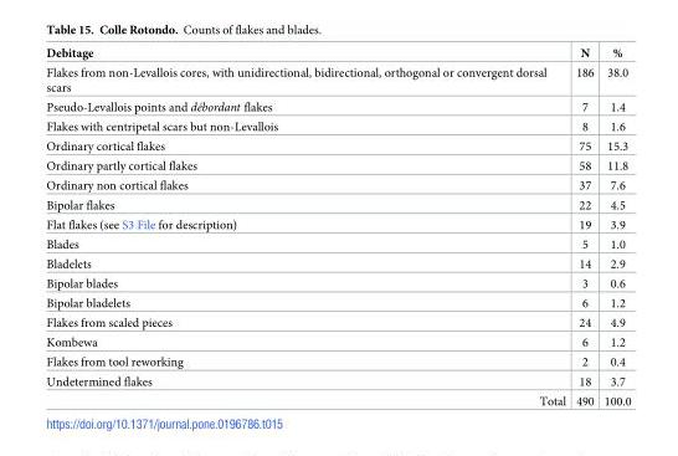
<table><thead><tr><td>Debitage</td><td>N</td><td>%</td></tr></thead><tbody><tr><td>Flakes from non-Levallois cores, with unidirectional, bidirectional, orthogonal or convergent dorsal scars</td><td>186</td><td>38.0</td></tr><tr><td>Pseudo-Levallois points and débordant flakes</td><td>7</td><td>1.4</td></tr><tr><td>Flakes with centripetal scars but non-Levallois</td><td>8</td><td>1.6</td></tr><tr><td>Ordinary cortical flakes</td><td>75</td><td>15.3</td></tr><tr><td>Ordinary partly cortical flakes</td><td>58</td><td>11.8</td></tr><tr><td>Ordinary non cortical flakes</td><td>37</td><td>7.6</td></tr><tr><td>Bipolar flakes</td><td>22</td><td>4.5</td></tr><tr><td>Flat flakes (see S3 File for description)</td><td>19</td><td>3.9</td></tr><tr><td>Blades</td><td>5</td><td>1.0</td></tr><tr><td>Bladelets</td><td>14</td><td>2.9</td></tr><tr><td>Bipolar blades</td><td>3</td><td>0.6</td></tr><tr><td>Bipolar bladelets</td><td>6</td><td>1.2</td></tr><tr><td>Flakes from scaled pieces</td><td>24</td><td>4.9</td></tr><tr><td>Kombewa</td><td>6</td><td>1.2</td></tr><tr><td>Flakes from tool reworking</td><td>2</td><td>0.4</td></tr><tr><td>Undetermined flakes</td><td>18</td><td>3.7</td></tr><tr><td>Total</td><td>490</td><td>100.0</td></tr></tbody></table>